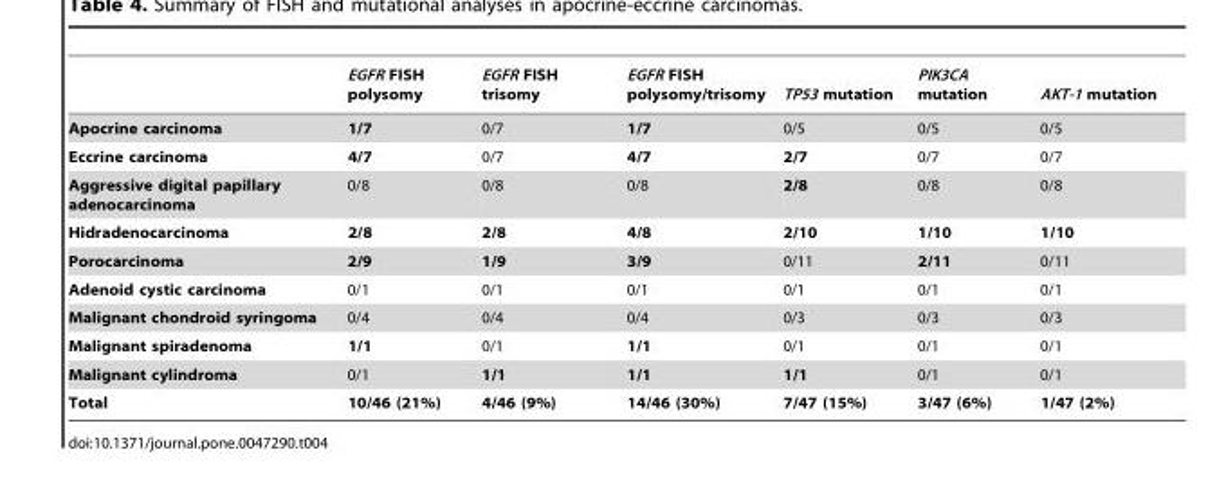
<table><thead><tr><td></td><td>EGFR FISH polysomy</td><td>EGFR FISH trisomy</td><td>EGFR FISH polysomy/trisomy</td><td>TP53 mutation</td><td>PIK3CA mutation</td><td>AKT-1 mutation</td></tr></thead><tbody><tr><td>Apocrine carcinoma</td><td>1/7</td><td>0/7</td><td>1/7</td><td>0/5</td><td>0/5</td><td>0/5</td></tr><tr><td>Eccrine carcinoma</td><td>4/7</td><td>0/7</td><td>4/7</td><td>2/7</td><td>0/7</td><td>0/7</td></tr><tr><td>Aggressive digital papillary adenocarcinoma</td><td>0/8</td><td>0/8</td><td>0/8</td><td>2/8</td><td>0/8</td><td>0/8</td></tr><tr><td>Hidradenocarcinoma</td><td>2/8</td><td>2/8</td><td>4/8</td><td>2/10</td><td>1/10</td><td>1/10</td></tr><tr><td>Porocarcinoma</td><td>2/9</td><td>1/9</td><td>3/9</td><td>0/11</td><td>2/11</td><td>0/11</td></tr><tr><td>Adenoid cystic carcinoma</td><td>0/1</td><td>0/1</td><td>0/1</td><td>0/1</td><td>0/1</td><td>0/1</td></tr><tr><td>Malignant chondroid syringoma</td><td>0/4</td><td>0/4</td><td>0/4</td><td>0/3</td><td>0/3</td><td>0/3</td></tr><tr><td>Malignant spiradenoma</td><td>1/1</td><td>0/1</td><td>1/1</td><td>0/1</td><td>0/1</td><td>0/1</td></tr><tr><td>Malignant cylindroma</td><td>0/1</td><td>1/1</td><td>1/1</td><td>1/1</td><td>0/1</td><td>0/1</td></tr><tr><td>Total</td><td>10/46 (21%)</td><td>4/46 (9%)</td><td>14/46 (30%)</td><td>7/47 (15%)</td><td>3/47 (6%)</td><td>1/47 (2%)</td></tr></tbody></table>